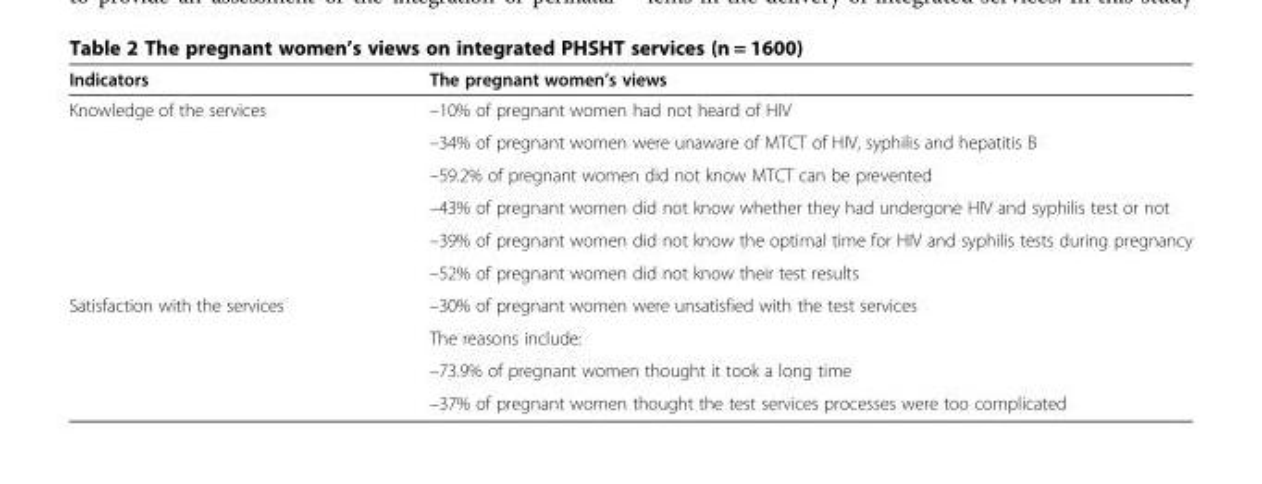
<table><thead><tr><td>Indicators</td><td>The pregnant women’s views</td></tr></thead><tbody><tr><td rowspan="6">Knowledge of the services</td><td>–10% of pregnant women had not heard of HIV</td></tr><tr><td>–34% of pregnant women were unaware of MTCT of HIV, syphilis and hepatitis B</td></tr><tr><td>–59.2% of pregnant women did not know MTCT can be prevented</td></tr><tr><td>–43% of pregnant women did not know whether they had undergone HIV and syphilis test or not</td></tr><tr><td>–39% of pregnant women did not know the optimal time for HIV and syphilis tests during pregnancy</td></tr><tr><td>–52% of pregnant women did not know their test results</td></tr><tr><td rowspan="4">Satisfaction with the services</td><td>–30% of pregnant women were unsatisfied with the test services</td></tr><tr><td>The reasons include:</td></tr><tr><td>–73.9% of pregnant women thought it took a long time</td></tr><tr><td>–37% of pregnant women thought the test services processes were too complicated</td></tr></tbody></table>